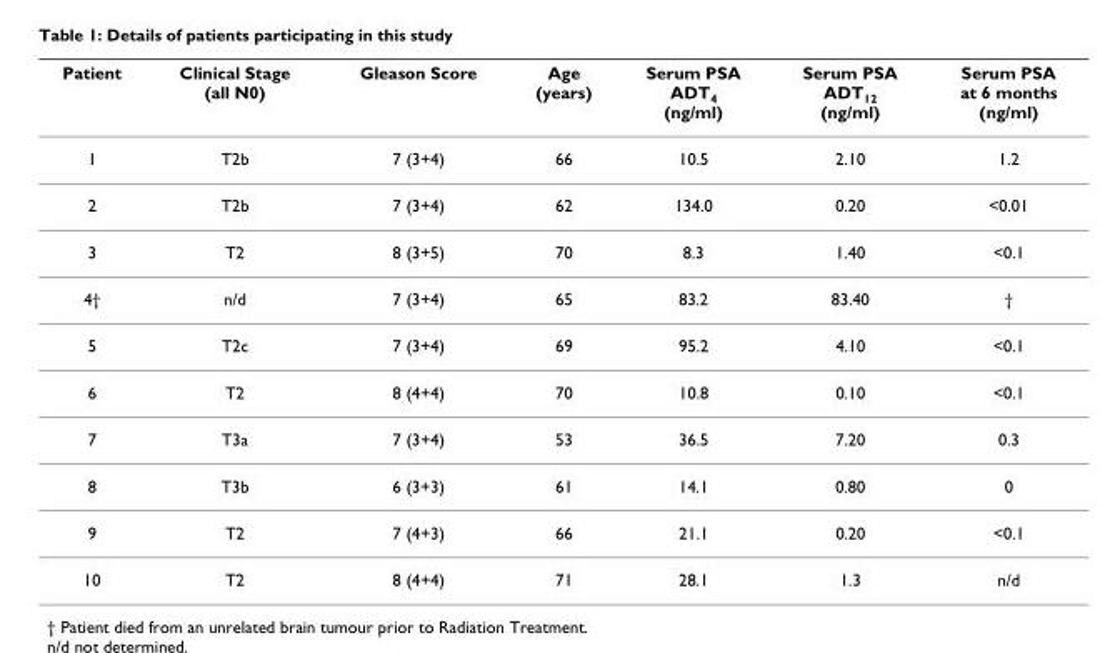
<table><thead><tr><td>Patient</td><td>Clinical Stage (all N0)</td><td>Gleason Score</td><td>Age (years)</td><td>Serum PSA ADT<sub>4</sub> (ng/ml)</td><td>Serum PSA ADT<sub>12</sub> (ng/ml)</td><td>Serum PSA at 6 months (ng/ml)</td></tr></thead><tbody><tr><td>1</td><td>T2b</td><td>7 (3+4)</td><td>66</td><td>10.5</td><td>2.10</td><td>1.2</td></tr><tr><td>2</td><td>T2b</td><td>7 (3+4)</td><td>62</td><td>134.0</td><td>0.20</td><td>&lt;0.01</td></tr><tr><td>3</td><td>T2</td><td>8 (3+5)</td><td>70</td><td>8.3</td><td>1.40</td><td>&lt;0.1</td></tr><tr><td>4†</td><td>n/d</td><td>7 (3+4)</td><td>65</td><td>83.2</td><td>83.40</td><td>†</td></tr><tr><td>5</td><td>T2c</td><td>7 (3+4)</td><td>69</td><td>95.2</td><td>4.10</td><td>&lt;0.1</td></tr><tr><td>6</td><td>T2</td><td>8 (4+4)</td><td>70</td><td>10.8</td><td>0.10</td><td>&lt;0.1</td></tr><tr><td>7</td><td>T3a</td><td>7 (3+4)</td><td>53</td><td>36.5</td><td>7.20</td><td>0.3</td></tr><tr><td>8</td><td>T3b</td><td>6 (3+3)</td><td>61</td><td>14.1</td><td>0.80</td><td>0</td></tr><tr><td>9</td><td>T2</td><td>7 (4+3)</td><td>66</td><td>21.1</td><td>0.20</td><td>&lt;0.1</td></tr><tr><td>10</td><td>T2</td><td>8 (4+4)</td><td>71</td><td>28.1</td><td>1.3</td><td>n/d</td></tr></tbody></table>